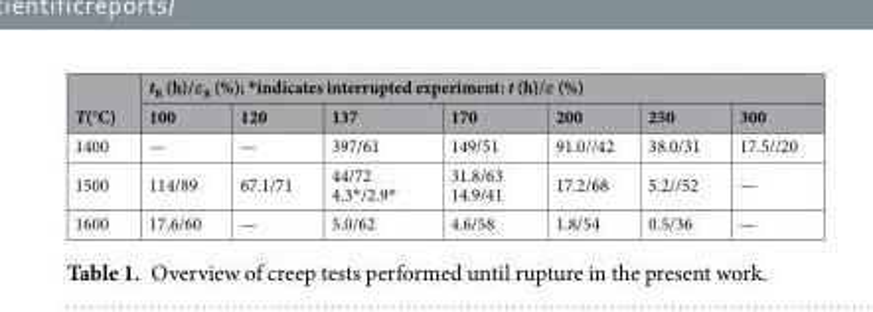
<table><thead><tr><td rowspan="2">T(°C)</td><td colspan="7">t<sub>R</sub> (h)/ε<sub>R</sub> (%); *indicates interrupted experiment: t (h)/ε (%)</td></tr><tr><td>100</td><td>120</td><td>137</td><td>170</td><td>200</td><td>250</td><td>300</td></tr></thead><tbody><tr><td>1400</td><td>—</td><td>—</td><td>397/61</td><td>149/51</td><td>91.0//42</td><td>38.0/31</td><td>17.5//20</td></tr><tr><td>1500</td><td>114/89</td><td>67.1/71</td><td>44/72 4.3*/2.9*</td><td>31.8/63 14.9/41</td><td>17.2/68</td><td>5.2//52</td><td>—</td></tr><tr><td>1600</td><td>17.6/60</td><td>—</td><td>5.0/62</td><td>4.6/58</td><td>1.8/54</td><td>0.5/36</td><td>—</td></tr></tbody></table>